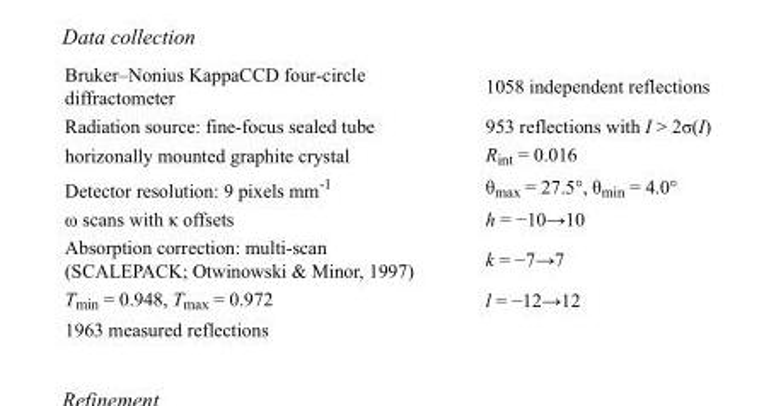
<table><tbody><tr><td>Bruker–Nonius KappaCCD four-circle diffractometer</td><td>1058 independent reflections</td></tr><tr><td>Radiation source: fine-focus sealed tube</td><td>953 reflections with I &gt; 2σ(I)</td></tr><tr><td>horizonally mounted graphite crystal</td><td>R<sub>int</sub> = 0.016</td></tr><tr><td>Detector resolution: 9 pixels mm<sup>-1</sup></td><td>θ<sub>max</sub> = 27.5°, θ<sub>min</sub> = 4.0°</td></tr><tr><td>ω scans with κ offsets</td><td>h = −10→10</td></tr><tr><td>Absorption correction: multi-scan (SCALEPACK; Otwinowski &amp; Minor, 1997)</td><td>k = −7→7</td></tr><tr><td>T<sub>min</sub> = 0.948, T<sub>max</sub> = 0.972</td><td>l = −12→12</td></tr><tr><td>1963 measured reflections</td><td></td></tr></tbody></table>